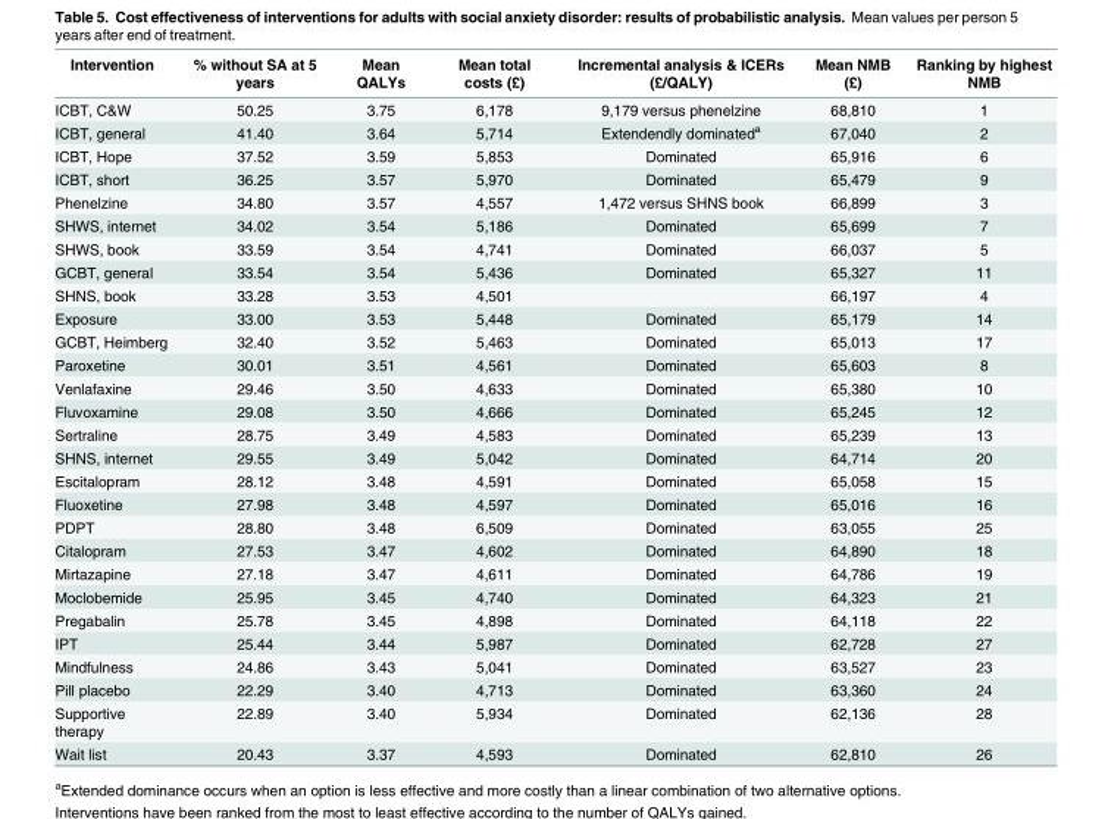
<table><thead><tr><td>Intervention</td><td>% without SA at 5 years</td><td>Mean QALYs</td><td>Mean total costs (£)</td><td>Incremental analysis &amp; ICERs (£/QALY)</td><td>Mean NMB (£)</td><td>Ranking by highest NMB</td></tr></thead><tbody><tr><td>ICBT, C&amp;W</td><td>50.25</td><td>3.75</td><td>6,178</td><td>9,179 versus phenelzine</td><td>68,810</td><td>1</td></tr><tr><td>ICBT, general</td><td>41.40</td><td>3.64</td><td>5,714</td><td>Extendendly dominated<sup>a</sup></td><td>67,040</td><td>2</td></tr><tr><td>ICBT, Hope</td><td>37.52</td><td>3.59</td><td>5,853</td><td>Dominated</td><td>65,916</td><td>6</td></tr><tr><td>ICBT, short</td><td>36.25</td><td>3.57</td><td>5,970</td><td>Dominated</td><td>65,479</td><td>9</td></tr><tr><td>Phenelzine</td><td>34.80</td><td>3.57</td><td>4,557</td><td>1,472 versus SHNS book</td><td>66,899</td><td>3</td></tr><tr><td>SHWS, internet</td><td>34.02</td><td>3.54</td><td>5,186</td><td>Dominated</td><td>65,699</td><td>7</td></tr><tr><td>SHWS, book</td><td>33.59</td><td>3.54</td><td>4,741</td><td>Dominated</td><td>66,037</td><td>5</td></tr><tr><td>GCBT, general</td><td>33.54</td><td>3.54</td><td>5,436</td><td>Dominated</td><td>65,327</td><td>11</td></tr><tr><td>SHNS, book</td><td>33.28</td><td>3.53</td><td>4,501</td><td></td><td>66,197</td><td>4</td></tr><tr><td>Exposure</td><td>33.00</td><td>3.53</td><td>5,448</td><td>Dominated</td><td>65,179</td><td>14</td></tr><tr><td>GCBT, Heimberg</td><td>32.40</td><td>3.52</td><td>5,463</td><td>Dominated</td><td>65,013</td><td>17</td></tr><tr><td>Paroxetine</td><td>30.01</td><td>3.51</td><td>4,561</td><td>Dominated</td><td>65,603</td><td>8</td></tr><tr><td>Venlafaxine</td><td>29.46</td><td>3.50</td><td>4,633</td><td>Dominated</td><td>65,380</td><td>10</td></tr><tr><td>Fluvoxamine</td><td>29.08</td><td>3.50</td><td>4,666</td><td>Dominated</td><td>65,245</td><td>12</td></tr><tr><td>Sertraline</td><td>28.75</td><td>3.49</td><td>4,583</td><td>Dominated</td><td>65,239</td><td>13</td></tr><tr><td>SHNS, internet</td><td>29.55</td><td>3.49</td><td>5,042</td><td>Dominated</td><td>64,714</td><td>20</td></tr><tr><td>Escitalopram</td><td>28.12</td><td>3.48</td><td>4,591</td><td>Dominated</td><td>65,058</td><td>15</td></tr><tr><td>Fluoxetine</td><td>27.98</td><td>3.48</td><td>4,597</td><td>Dominated</td><td>65,016</td><td>16</td></tr><tr><td>PDPT</td><td>28.80</td><td>3.48</td><td>6,509</td><td>Dominated</td><td>63,055</td><td>25</td></tr><tr><td>Citalopram</td><td>27.53</td><td>3.47</td><td>4,602</td><td>Dominated</td><td>64,890</td><td>18</td></tr><tr><td>Mirtazapine</td><td>27.18</td><td>3.47</td><td>4,611</td><td>Dominated</td><td>64,786</td><td>19</td></tr><tr><td>Moclobemide</td><td>25.95</td><td>3.45</td><td>4,740</td><td>Dominated</td><td>64,323</td><td>21</td></tr><tr><td>Pregabalin</td><td>25.78</td><td>3.45</td><td>4,898</td><td>Dominated</td><td>64,118</td><td>22</td></tr><tr><td>IPT</td><td>25.44</td><td>3.44</td><td>5,987</td><td>Dominated</td><td>62,728</td><td>27</td></tr><tr><td>Mindfulness</td><td>24.86</td><td>3.43</td><td>5,041</td><td>Dominated</td><td>63,527</td><td>23</td></tr><tr><td>Pill placebo</td><td>22.29</td><td>3.40</td><td>4,713</td><td>Dominated</td><td>63,360</td><td>24</td></tr><tr><td>Supportive therapy</td><td>22.89</td><td>3.40</td><td>5,934</td><td>Dominated</td><td>62,136</td><td>28</td></tr><tr><td>Wait list</td><td>20.43</td><td>3.37</td><td>4,593</td><td>Dominated</td><td>62,810</td><td>26</td></tr></tbody></table>